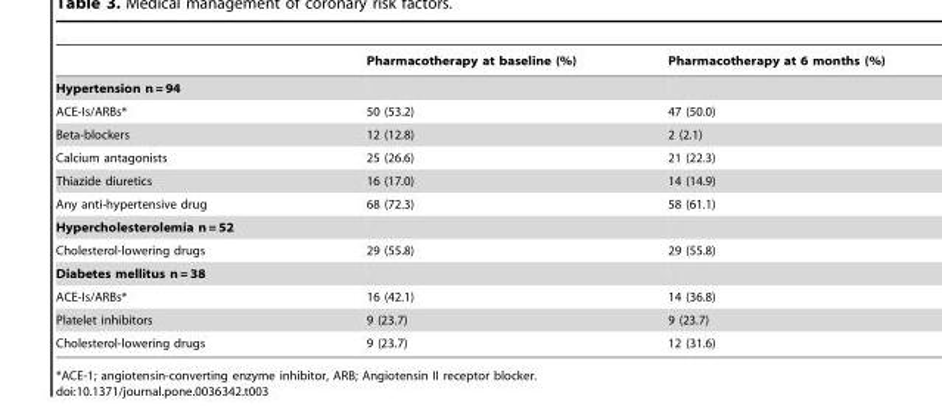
<table><thead><tr><td></td><td>Pharmacotherapy at baseline (%)</td><td>Pharmacotherapy at 6 months (%)</td></tr></thead><tbody><tr><td colspan="3">Hypertension n = 94</td></tr><tr><td>ACE-Is/ARBs*</td><td>50 (53.2)</td><td>47 (50.0)</td></tr><tr><td>Beta-blockers</td><td>12 (12.8)</td><td>2 (2.1)</td></tr><tr><td>Calcium antagonists</td><td>25 (26.6)</td><td>21 (22.3)</td></tr><tr><td>Thiazide diuretics</td><td>16 (17.0)</td><td>14 (14.9)</td></tr><tr><td>Any anti-hypertensive drug</td><td>68 (72.3)</td><td>58 (61.1)</td></tr><tr><td colspan="3">Hypercholesterolemia n = 52</td></tr><tr><td>Cholesterol-lowering drugs</td><td>29 (55.8)</td><td>29 (55.8)</td></tr><tr><td colspan="3">Diabetes mellitus n = 38</td></tr><tr><td>ACE-Is/ARBs*</td><td>16 (42.1)</td><td>14 (36.8)</td></tr><tr><td>Platelet inhibitors</td><td>9 (23.7)</td><td>9 (23.7)</td></tr><tr><td>Cholesterol-lowering drugs</td><td>9 (23.7)</td><td>12 (31.6)</td></tr></tbody></table>